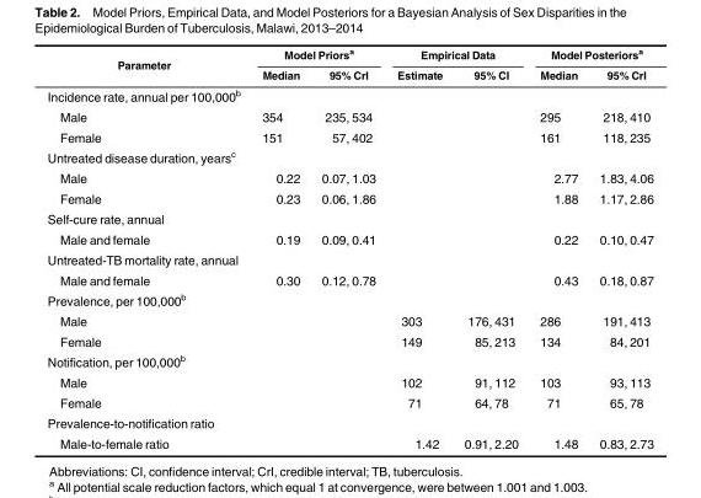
<table><thead><tr><td rowspan="2">Parameter</td><td colspan="2">Model Priors<sup>a</sup></td><td colspan="2">Empirical Data</td><td colspan="2">Model Posteriors<sup>a</sup></td></tr><tr><td>Median</td><td>95% CrI</td><td>Estimate</td><td>95% CI</td><td>Median</td><td>95% CrI</td></tr></thead><tbody><tr><td colspan="7">Incidence rate, annual per 100,000<sup>b</sup></td></tr><tr><td>Male</td><td>354</td><td>235, 534</td><td></td><td></td><td>295</td><td>218, 410</td></tr><tr><td>Female</td><td>151</td><td>57, 402</td><td></td><td></td><td>161</td><td>118, 235</td></tr><tr><td colspan="7">Untreated disease duration, years<sup>c</sup></td></tr><tr><td>Male</td><td>0.22</td><td>0.07, 1.03</td><td></td><td></td><td>2.77</td><td>1.83, 4.06</td></tr><tr><td>Female</td><td>0.23</td><td>0.06, 1.86</td><td></td><td></td><td>1.88</td><td>1.17, 2.86</td></tr><tr><td colspan="7">Self-cure rate, annual</td></tr><tr><td>Male and female</td><td>0.19</td><td>0.09, 0.41</td><td></td><td></td><td>0.22</td><td>0.10, 0.47</td></tr><tr><td colspan="7">Untreated-TB mortality rate, annual</td></tr><tr><td>Male and female</td><td>0.30</td><td>0.12, 0.78</td><td></td><td></td><td>0.43</td><td>0.18, 0.87</td></tr><tr><td colspan="7">Prevalence, per 100,000<sup>b</sup></td></tr><tr><td>Male</td><td></td><td></td><td>303</td><td>176, 431</td><td>286</td><td>191, 413</td></tr><tr><td>Female</td><td></td><td></td><td>149</td><td>85, 213</td><td>134</td><td>84, 201</td></tr><tr><td colspan="7">Notification, per 100,000<sup>b</sup></td></tr><tr><td>Male</td><td></td><td></td><td>102</td><td>91, 112</td><td>103</td><td>93, 113</td></tr><tr><td>Female</td><td></td><td></td><td>71</td><td>64, 78</td><td>71</td><td>65, 78</td></tr><tr><td colspan="7">Prevalence-to-notification ratio</td></tr><tr><td>Male-to-female ratio</td><td></td><td></td><td>1.42</td><td>0.91, 2.20</td><td>1.48</td><td>0.83, 2.73</td></tr></tbody></table>